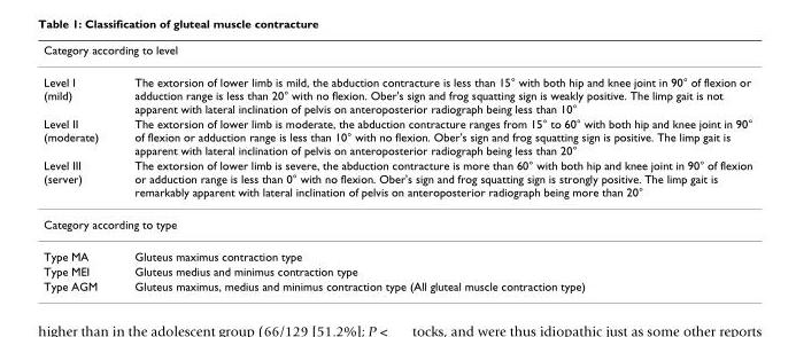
<table><thead><tr><td colspan="2">Category according to level</td></tr><tr><td>Level I (mild)</td><td>The extorsion of lower limb is mild, the abduction contracture is less than 15° with both hip and knee joint in 90° of flexion or adduction range is less than 20° with no flexion. Ober&#x27;s sign and frog squatting sign is weakly positive. The limp gait is not apparent with lateral inclination of pelvis on anteroposterior radiograph being less than 10°</td></tr></thead><tbody><tr><td>Level II (moderate)</td><td>The extorsion of lower limb is moderate, the abduction contracture ranges from 15° to 60° with both hip and knee joint in 90° of flexion or adduction range is less than 10° with no flexion. Ober&#x27;s sign and frog squatting sign is positive. The limp gait is apparent with lateral inclination of pelvis on anteroposterior radiograph being less than 20°</td></tr><tr><td>Level III (server)</td><td>The extorsion of lower limb is severe, the abduction contracture is more than 60° with both hip and knee joint in 90° of flexion or adduction range is less than 0° with no flexion. Ober&#x27;s sign and frog squatting sign is strongly positive. The limp gait is remarkably apparent with lateral inclination of pelvis on anteroposterior radiograph being more than 20°</td></tr><tr><td colspan="2">Category according to type</td></tr><tr><td>Type MA</td><td>Gluteus maximus contraction type</td></tr><tr><td>Type MEI</td><td>Gluteus medius and minimus contraction type</td></tr><tr><td>Type AGM</td><td>Gluteus maximus, medius and minimus contraction type (All gluteal muscle contraction type)</td></tr></tbody></table>